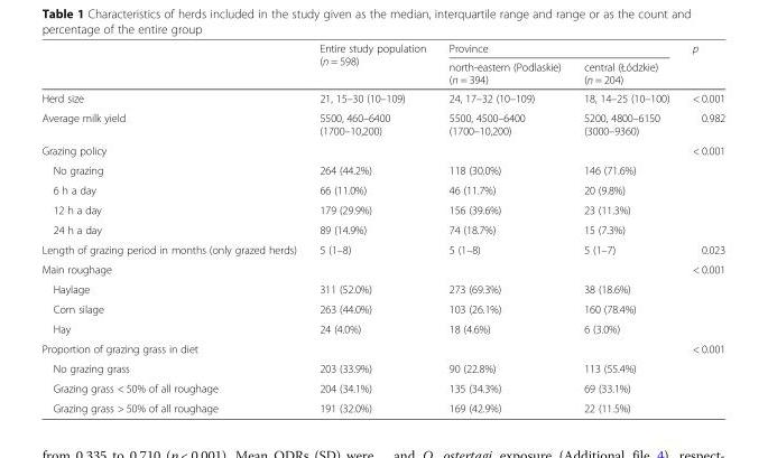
<table><thead><tr><td rowspan="2"></td><td rowspan="2">Entire study population (n = 598)</td><td colspan="2">Province</td><td rowspan="2">p</td></tr><tr><td>north-eastern (Podlaskie) (n = 394)</td><td>central (Łódzkie) (n = 204)</td></tr></thead><tbody><tr><td>Herd size</td><td>21, 15–30 (10–109)</td><td>24, 17–32 (10–109)</td><td>18, 14–25 (10–100)</td><td>&lt; 0.001</td></tr><tr><td>Average milk yield</td><td>5500, 460–6400 (1700–10,200)</td><td>5500, 4500–6400 (1700–10,200)</td><td>5200, 4800–6150 (3000–9360)</td><td>0.982</td></tr><tr><td colspan="4">Grazing policy</td><td rowspan="5">&lt; 0.001</td></tr><tr><td>No grazing</td><td>264 (44.2%)</td><td>118 (30.0%)</td><td>146 (71.6%)</td></tr><tr><td>6 h a day</td><td>66 (11.0%)</td><td>46 (11.7%)</td><td>20 (9.8%)</td></tr><tr><td>12 h a day</td><td>179 (29.9%)</td><td>156 (39.6%)</td><td>23 (11.3%)</td></tr><tr><td>24 h a day</td><td>89 (14.9%)</td><td>74 (18.7%)</td><td>15 (7.3%)</td></tr><tr><td>Length of grazing period in months (only grazed herds)</td><td>5 (1–8)</td><td>5 (1–8)</td><td>5 (1–7)</td><td>0.023</td></tr><tr><td colspan="4">Main roughage</td><td rowspan="4">&lt; 0.001</td></tr><tr><td>Haylage</td><td>311 (52.0%)</td><td>273 (69.3%)</td><td>38 (18.6%)</td></tr><tr><td>Corn silage</td><td>263 (44.0%)</td><td>103 (26.1%)</td><td>160 (78.4%)</td></tr><tr><td>Hay</td><td>24 (4.0%)</td><td>18 (4.6%)</td><td>6 (3.0%)</td></tr><tr><td colspan="4">Proportion of grazing grass in diet</td><td rowspan="4">&lt; 0.001</td></tr><tr><td>No grazing grass</td><td>203 (33.9%)</td><td>90 (22.8%)</td><td>113 (55.4%)</td></tr><tr><td>Grazing grass &lt; 50% of all roughage</td><td>204 (34.1%)</td><td>135 (34.3%)</td><td>69 (33.1%)</td></tr><tr><td>Grazing grass &gt; 50% of all roughage</td><td>191 (32.0%)</td><td>169 (42.9%)</td><td>22 (11.5%)</td></tr></tbody></table>